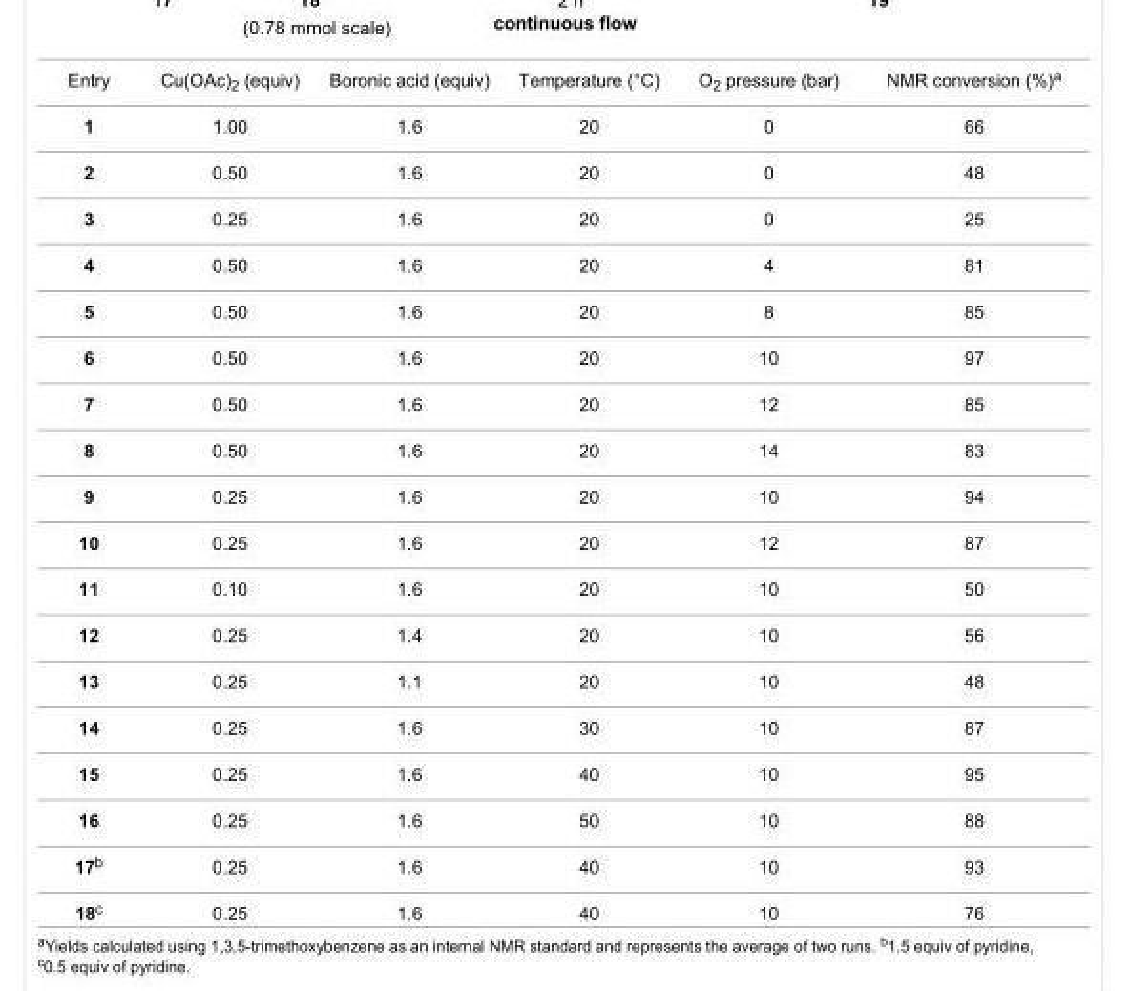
<table><tbody><tr><td>Entry</td><td>Cu(OAc)<sub>2</sub> (equiv)</td><td>Boronic acid (equiv)</td><td>Temperature (°C)</td><td>O<sub>2</sub> pressure (bar)</td><td>NMR conversion (%)<sup>a</sup></td></tr><tr><td>1</td><td>1.00</td><td>1.6</td><td>20</td><td>0</td><td>66</td></tr><tr><td>2</td><td>0.50</td><td>1.6</td><td>20</td><td>0</td><td>48</td></tr><tr><td>3</td><td>0.25</td><td>1.6</td><td>20</td><td>0</td><td>25</td></tr><tr><td>4</td><td>0.50</td><td>1.6</td><td>20</td><td>4</td><td>81</td></tr><tr><td>5</td><td>0.50</td><td>1.6</td><td>20</td><td>8</td><td>85</td></tr><tr><td>6</td><td>0.50</td><td>1.6</td><td>20</td><td>10</td><td>97</td></tr><tr><td>7</td><td>0.50</td><td>1.6</td><td>20</td><td>12</td><td>85</td></tr><tr><td>8</td><td>0.50</td><td>1.6</td><td>20</td><td>14</td><td>83</td></tr><tr><td>9</td><td>0.25</td><td>1.6</td><td>20</td><td>10</td><td>94</td></tr><tr><td>10</td><td>0.25</td><td>1.6</td><td>20</td><td>12</td><td>87</td></tr><tr><td>11</td><td>0.10</td><td>1.6</td><td>20</td><td>10</td><td>50</td></tr><tr><td>12</td><td>0.25</td><td>1.4</td><td>20</td><td>10</td><td>56</td></tr><tr><td>13</td><td>0.25</td><td>1.1</td><td>20</td><td>10</td><td>48</td></tr><tr><td>14</td><td>0.25</td><td>1.6</td><td>30</td><td>10</td><td>87</td></tr><tr><td>15</td><td>0.25</td><td>1.6</td><td>40</td><td>10</td><td>95</td></tr><tr><td>16</td><td>0.25</td><td>1.6</td><td>50</td><td>10</td><td>88</td></tr><tr><td>17<sup>b</sup></td><td>0.25</td><td>1.6</td><td>40</td><td>10</td><td>93</td></tr><tr><td>18<sup>c</sup></td><td>0.25</td><td>1.6</td><td>40</td><td>10</td><td>76</td></tr></tbody></table>